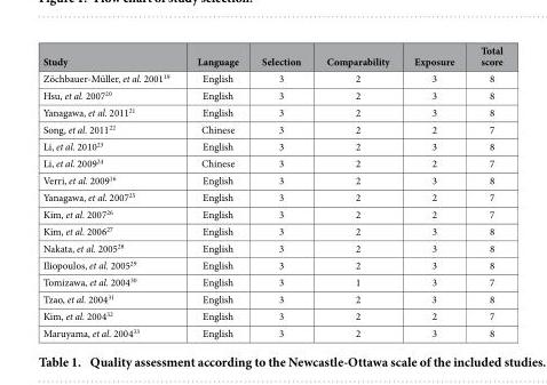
<table><thead><tr><td>Study</td><td>Language</td><td>Selection</td><td>Comparability</td><td>Exposure</td><td>Total score</td></tr></thead><tbody><tr><td>Zöchbauer-Müller, et al. 2001<sup>19</sup></td><td>English</td><td>3</td><td>2</td><td>3</td><td>8</td></tr><tr><td>Hsu, et al. 2007<sup>20</sup></td><td>English</td><td>3</td><td>2</td><td>3</td><td>8</td></tr><tr><td>Yanagawa, et al. 2011<sup>21</sup></td><td>English</td><td>3</td><td>2</td><td>3</td><td>8</td></tr><tr><td>Song, et al. 2011<sup>22</sup></td><td>Chinese</td><td>3</td><td>2</td><td>2</td><td>7</td></tr><tr><td>Li, et al. 2010<sup>23</sup></td><td>English</td><td>3</td><td>2</td><td>3</td><td>8</td></tr><tr><td>Li, et al. 2009<sup>24</sup></td><td>Chinese</td><td>3</td><td>2</td><td>2</td><td>7</td></tr><tr><td>Verri, et al. 2009<sup>16</sup></td><td>English</td><td>3</td><td>2</td><td>3</td><td>8</td></tr><tr><td>Yanagawa, et al. 2007<sup>25</sup></td><td>English</td><td>3</td><td>2</td><td>2</td><td>7</td></tr><tr><td>Kim, et al. 2007<sup>26</sup></td><td>English</td><td>3</td><td>2</td><td>2</td><td>7</td></tr><tr><td>Kim, et al. 2006<sup>27</sup></td><td>English</td><td>3</td><td>2</td><td>3</td><td>8</td></tr><tr><td>Nakata, et al. 2005<sup>28</sup></td><td>English</td><td>3</td><td>2</td><td>3</td><td>8</td></tr><tr><td>Iliopoulos, et al. 2005<sup>29</sup></td><td>English</td><td>3</td><td>2</td><td>3</td><td>8</td></tr><tr><td>Tomizawa, et al. 2004<sup>30</sup></td><td>English</td><td>3</td><td>1</td><td>3</td><td>7</td></tr><tr><td>Tzao, et al. 2004<sup>31</sup></td><td>English</td><td>3</td><td>2</td><td>3</td><td>8</td></tr><tr><td>Kim, et al. 2004<sup>32</sup></td><td>English</td><td>3</td><td>2</td><td>2</td><td>7</td></tr><tr><td>Maruyama, et al. 2004<sup>33</sup></td><td>English</td><td>3</td><td>2</td><td>3</td><td>8</td></tr></tbody></table>